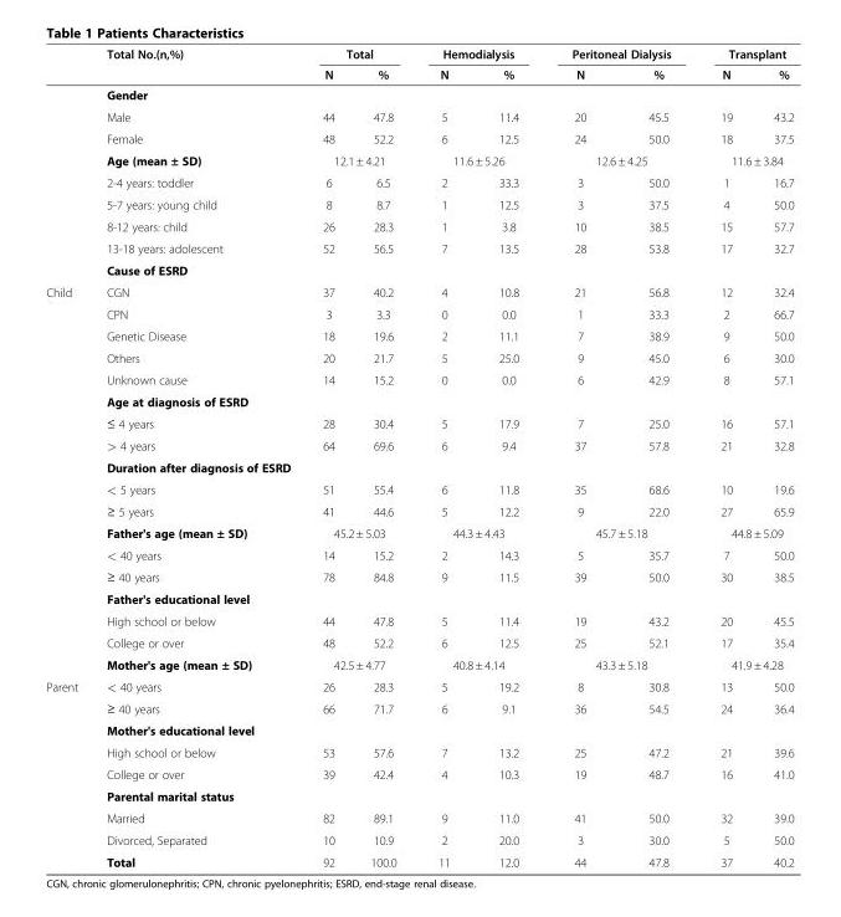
<table><thead><tr><td rowspan="2"></td><td rowspan="2">Total No.(n,%)</td><td colspan="2">Total</td><td colspan="2">Hemodialysis</td><td colspan="2">Peritoneal Dialysis</td><td colspan="2">Transplant</td></tr><tr><td>N</td><td>%</td><td>N</td><td>%</td><td>N</td><td>%</td><td>N</td><td>%</td></tr></thead><tbody><tr><td></td><td>Gender</td><td></td><td></td><td></td><td></td><td></td><td></td><td></td><td></td></tr><tr><td></td><td>Male</td><td>44</td><td>47.8</td><td>5</td><td>11.4</td><td>20</td><td>45.5</td><td>19</td><td>43.2</td></tr><tr><td></td><td>Female</td><td>48</td><td>52.2</td><td>6</td><td>12.5</td><td>24</td><td>50.0</td><td>18</td><td>37.5</td></tr><tr><td></td><td>Age (mean ± SD)</td><td colspan="2">12.1 ± 4.21</td><td colspan="2">11.6 ± 5.26</td><td colspan="2">12.6 ± 4.25</td><td colspan="2">11.6 ± 3.84</td></tr><tr><td></td><td>2-4 years: toddler</td><td>6</td><td>6.5</td><td>2</td><td>33.3</td><td>3</td><td>50.0</td><td>1</td><td>16.7</td></tr><tr><td></td><td>5-7 years: young child</td><td>8</td><td>8.7</td><td>1</td><td>12.5</td><td>3</td><td>37.5</td><td>4</td><td>50.0</td></tr><tr><td></td><td>8-12 years: child</td><td>26</td><td>28.3</td><td>1</td><td>3.8</td><td>10</td><td>38.5</td><td>15</td><td>57.7</td></tr><tr><td></td><td>13-18 years: adolescent</td><td>52</td><td>56.5</td><td>7</td><td>13.5</td><td>28</td><td>53.8</td><td>17</td><td>32.7</td></tr><tr><td></td><td>Cause of ESRD</td><td></td><td></td><td></td><td></td><td></td><td></td><td></td><td></td></tr><tr><td rowspan="18">Child</td><td>CGN</td><td>37</td><td>40.2</td><td>4</td><td>10.8</td><td>21</td><td>56.8</td><td>12</td><td>32.4</td></tr><tr><td>CPN</td><td>3</td><td>3.3</td><td>0</td><td>0.0</td><td>1</td><td>33.3</td><td>2</td><td>66.7</td></tr><tr><td>Genetic Disease</td><td>18</td><td>19.6</td><td>2</td><td>11.1</td><td>7</td><td>38.9</td><td>9</td><td>50.0</td></tr><tr><td>Others</td><td>20</td><td>21.7</td><td>5</td><td>25.0</td><td>9</td><td>45.0</td><td>6</td><td>30.0</td></tr><tr><td>Unknown cause</td><td>14</td><td>15.2</td><td>0</td><td>0.0</td><td>6</td><td>42.9</td><td>8</td><td>57.1</td></tr><tr><td>Age at diagnosis of ESRD</td><td></td><td></td><td></td><td></td><td></td><td></td><td></td><td></td></tr><tr><td>≤ 4 years</td><td>28</td><td>30.4</td><td>5</td><td>17.9</td><td>7</td><td>25.0</td><td>16</td><td>57.1</td></tr><tr><td>&gt; 4 years</td><td>64</td><td>69.6</td><td>6</td><td>9.4</td><td>37</td><td>57.8</td><td>21</td><td>32.8</td></tr><tr><td>Duration after diagnosis of ESRD</td><td></td><td></td><td></td><td></td><td></td><td></td><td></td><td></td></tr><tr><td>&lt; 5 years</td><td>51</td><td>55.4</td><td>6</td><td>11.8</td><td>35</td><td>68.6</td><td>10</td><td>19.6</td></tr><tr><td>≥ 5 years</td><td>41</td><td>44.6</td><td>5</td><td>12.2</td><td>9</td><td>22.0</td><td>27</td><td>65.9</td></tr><tr><td>Father&#x27;s age (mean ± SD)</td><td colspan="2">45.2 ± 5.03</td><td colspan="2">44.3 ± 4.43</td><td colspan="2">45.7 ± 5.18</td><td colspan="2">44.8 ± 5.09</td></tr><tr><td>&lt; 40 years</td><td>14</td><td>15.2</td><td>2</td><td>14.3</td><td>5</td><td>35.7</td><td>7</td><td>50.0</td></tr><tr><td>≥ 40 years</td><td>78</td><td>84.8</td><td>9</td><td>11.5</td><td>39</td><td>50.0</td><td>30</td><td>38.5</td></tr><tr><td>Father&#x27;s educational level</td><td></td><td></td><td></td><td></td><td></td><td></td><td></td><td></td></tr><tr><td>High school or below</td><td>44</td><td>47.8</td><td>5</td><td>11.4</td><td>19</td><td>43.2</td><td>20</td><td>45.5</td></tr><tr><td>College or over</td><td>48</td><td>52.2</td><td>6</td><td>12.5</td><td>25</td><td>52.1</td><td>17</td><td>35.4</td></tr><tr><td>Mother&#x27;s age (mean ± SD)</td><td colspan="2">42.5 ± 4.77</td><td colspan="2">40.8 ± 4.14</td><td colspan="2">43.3 ± 5.18</td><td colspan="2">41.9 ± 4.28</td></tr><tr><td rowspan="9">Parent</td><td>&lt; 40 years</td><td>26</td><td>28.3</td><td>5</td><td>19.2</td><td>8</td><td>30.8</td><td>13</td><td>50.0</td></tr><tr><td>≥ 40 years</td><td>66</td><td>71.7</td><td>6</td><td>9.1</td><td>36</td><td>54.5</td><td>24</td><td>36.4</td></tr><tr><td>Mother&#x27;s educational level</td><td></td><td></td><td></td><td></td><td></td><td></td><td></td><td></td></tr><tr><td>High school or below</td><td>53</td><td>57.6</td><td>7</td><td>13.2</td><td>25</td><td>47.2</td><td>21</td><td>39.6</td></tr><tr><td>College or over</td><td>39</td><td>42.4</td><td>4</td><td>10.3</td><td>19</td><td>48.7</td><td>16</td><td>41.0</td></tr><tr><td>Parental marital status</td><td></td><td></td><td></td><td></td><td></td><td></td><td></td><td></td></tr><tr><td>Married</td><td>82</td><td>89.1</td><td>9</td><td>11.0</td><td>41</td><td>50.0</td><td>32</td><td>39.0</td></tr><tr><td>Divorced, Separated</td><td>10</td><td>10.9</td><td>2</td><td>20.0</td><td>3</td><td>30.0</td><td>5</td><td>50.0</td></tr><tr><td>Total</td><td>92</td><td>100.0</td><td>11</td><td>12.0</td><td>44</td><td>47.8</td><td>37</td><td>40.2</td></tr></tbody></table>